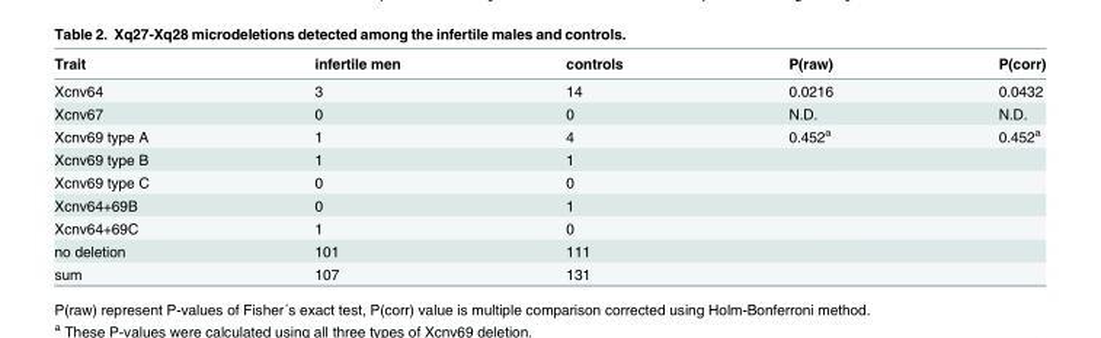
<table><thead><tr><td>Trait</td><td>infertile men</td><td>controls</td><td>P(raw)</td><td>P(corr)</td></tr></thead><tbody><tr><td>Xcnv64</td><td>3</td><td>14</td><td>0.0216</td><td>0.0432</td></tr><tr><td>Xcnv67</td><td>0</td><td>0</td><td>N.D.</td><td>N.D.</td></tr><tr><td>Xcnv69 type A</td><td>1</td><td>4</td><td>0.452<sup>a</sup></td><td>0.452<sup>a</sup></td></tr><tr><td>Xcnv69 type B</td><td>1</td><td>1</td><td></td><td></td></tr><tr><td>Xcnv69 type C</td><td>0</td><td>0</td><td></td><td></td></tr><tr><td>Xcnv64+69B</td><td>0</td><td>1</td><td></td><td></td></tr><tr><td>Xcnv64+69C</td><td>1</td><td>0</td><td></td><td></td></tr><tr><td>no deletion</td><td>101</td><td>111</td><td></td><td></td></tr><tr><td>sum</td><td>107</td><td>131</td><td></td><td></td></tr></tbody></table>